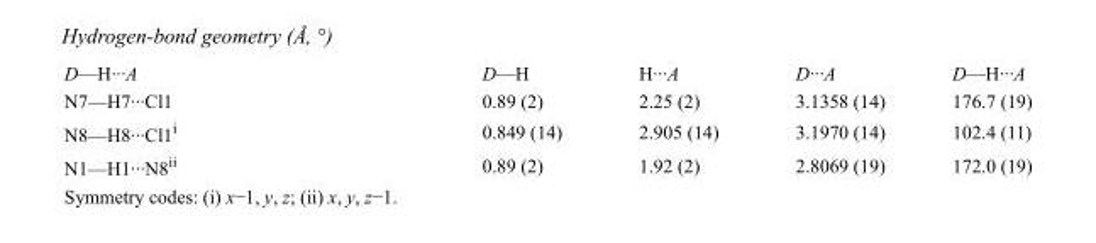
<table><tbody><tr><td>D—H···A</td><td>D—H</td><td>H···A</td><td>D···A</td><td>D—H···A</td></tr><tr><td>N7—H7···Cl1</td><td>0.89 (2)</td><td>2.25 (2)</td><td>3.1358 (14)</td><td>176.7 (19)</td></tr><tr><td>N8—H8···Cl1<sup>i</sup></td><td>0.849 (14)</td><td>2.905 (14)</td><td>3.1970 (14)</td><td>102.4 (11)</td></tr><tr><td>N1—H1···N8<sup>ii</sup></td><td>0.89 (2)</td><td>1.92 (2)</td><td>2.8069 (19)</td><td>172.0 (19)</td></tr></tbody></table>